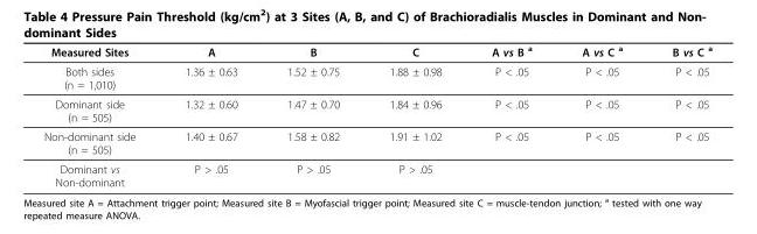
<table><thead><tr><td>Measured Sites</td><td>A</td><td>B</td><td>C</td><td>A vs B <sup>a</sup></td><td>A vs C <sup>a</sup></td><td>B vs C <sup>a</sup></td></tr></thead><tbody><tr><td>Both sides (n = 1,010)</td><td>1.36 ± 0.63</td><td>1.52 ± 0.75</td><td>1.88 ± 0.98</td><td>P &lt; .05</td><td>P &lt; .05</td><td>P &lt; .05</td></tr><tr><td>Dominant side (n = 505)</td><td>1.32 ± 0.60</td><td>1.47 ± 0.70</td><td>1.84 ± 0.96</td><td>P &lt; .05</td><td>P &lt; .05</td><td>P &lt; .05</td></tr><tr><td>Non-dominant side (n = 505)</td><td>1.40 ± 0.67</td><td>1.58 ± 0.82</td><td>1.91 ± 1.02</td><td>P &lt; .05</td><td>P &lt; .05</td><td>P &lt; .05</td></tr><tr><td>Dominant vs Non-dominant</td><td>P &gt; .05</td><td>P &gt; .05</td><td>P &gt; .05</td><td></td><td></td><td></td></tr></tbody></table>